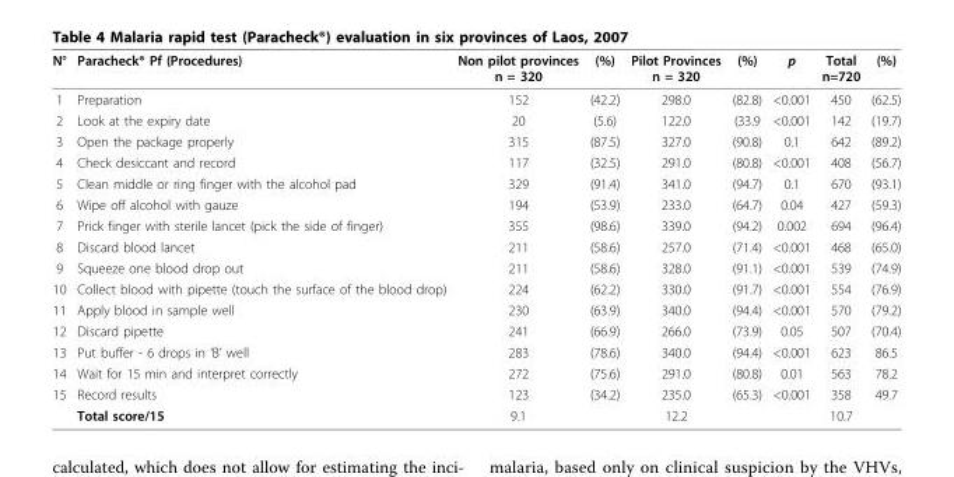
<table><thead><tr><td>N°</td><td>Paracheck<sup>®</sup> Pf (Procedures)</td><td>Non pilot provinces n = 320</td><td>(%)</td><td>Pilot Provinces n = 320</td><td>(%)</td><td>p</td><td>Total n=720</td><td>(%)</td></tr></thead><tbody><tr><td>1</td><td>Preparation</td><td>152</td><td>(42.2)</td><td>298.0</td><td>(82.8)</td><td>&lt;0.001</td><td>450</td><td>(62.5)</td></tr><tr><td>2</td><td>Look at the expiry date</td><td>20</td><td>(5.6)</td><td>122.0</td><td>(33.9</td><td>&lt;0.001</td><td>142</td><td>(19.7)</td></tr><tr><td>3</td><td>Open the package properly</td><td>315</td><td>(87.5)</td><td>327.0</td><td>(90.8)</td><td>0.1</td><td>642</td><td>(89.2)</td></tr><tr><td>4</td><td>Check desiccant and record</td><td>117</td><td>(32.5)</td><td>291.0</td><td>(80.8)</td><td>&lt;0.001</td><td>408</td><td>(56.7)</td></tr><tr><td>5</td><td>Clean middle or ring finger with the alcohol pad</td><td>329</td><td>(91.4)</td><td>341.0</td><td>(94.7)</td><td>0.1</td><td>670</td><td>(93.1)</td></tr><tr><td>6</td><td>Wipe off alcohol with gauze</td><td>194</td><td>(53.9)</td><td>233.0</td><td>(64.7)</td><td>0.04</td><td>427</td><td>(59.3)</td></tr><tr><td>7</td><td>Prick finger with sterile lancet (pick the side of finger)</td><td>355</td><td>(98.6)</td><td>339.0</td><td>(94.2)</td><td>0.002</td><td>694</td><td>(96.4)</td></tr><tr><td>8</td><td>Discard blood lancet</td><td>211</td><td>(58.6)</td><td>257.0</td><td>(71.4)</td><td>&lt;0.001</td><td>468</td><td>(65.0)</td></tr><tr><td>9</td><td>Squeeze one blood drop out</td><td>211</td><td>(58.6)</td><td>328.0</td><td>(91.1)</td><td>&lt;0.001</td><td>539</td><td>(74.9)</td></tr><tr><td>10</td><td>Collect blood with pipette (touch the surface of the blood drop)</td><td>224</td><td>(62.2)</td><td>330.0</td><td>(91.7)</td><td>&lt;0.001</td><td>554</td><td>(76.9)</td></tr><tr><td>11</td><td>Apply blood in sample well</td><td>230</td><td>(63.9)</td><td>340.0</td><td>(94.4)</td><td>&lt;0.001</td><td>570</td><td>(79.2)</td></tr><tr><td>12</td><td>Discard pipette</td><td>241</td><td>(66.9)</td><td>266.0</td><td>(73.9)</td><td>0.05</td><td>507</td><td>(70.4)</td></tr><tr><td>13</td><td>Put buffer - 6 drops in ‘B’ well</td><td>283</td><td>(78.6)</td><td>340.0</td><td>(94.4)</td><td>&lt;0.001</td><td>623</td><td>86.5</td></tr><tr><td>14</td><td>Wait for 15 min and interpret correctly</td><td>272</td><td>(75.6)</td><td>291.0</td><td>(80.8)</td><td>0.01</td><td>563</td><td>78.2</td></tr><tr><td rowspan="2">15</td><td>Record results</td><td>123</td><td>(34.2)</td><td>235.0</td><td>(65.3)</td><td>&lt;0.001</td><td>358</td><td>49.7</td></tr><tr><td>Total score/15</td><td>9.1</td><td></td><td>12.2</td><td></td><td></td><td>10.7</td><td></td></tr></tbody></table>